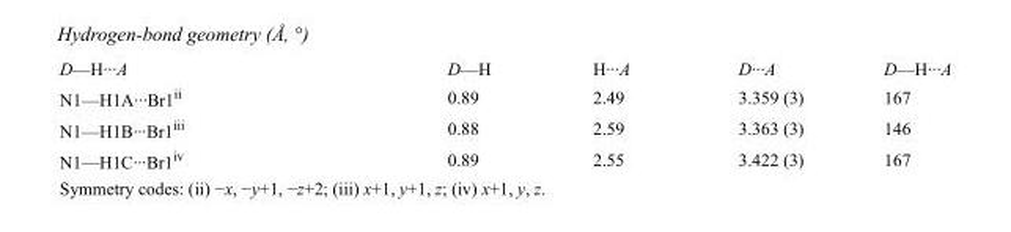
<table><tbody><tr><td>D—H···A</td><td>D—H</td><td>H···A</td><td>D···A</td><td>D—H···A</td></tr><tr><td>N1—H1A···Br1<sup>ii</sup></td><td>0.89</td><td>2.49</td><td>3.359 (3)</td><td>167</td></tr><tr><td>N1—H1B···Br1<sup>iii</sup></td><td>0.88</td><td>2.59</td><td>3.363 (3)</td><td>146</td></tr><tr><td>N1—H1C···Br1<sup>iv</sup></td><td>0.89</td><td>2.55</td><td>3.422 (3)</td><td>167</td></tr></tbody></table>